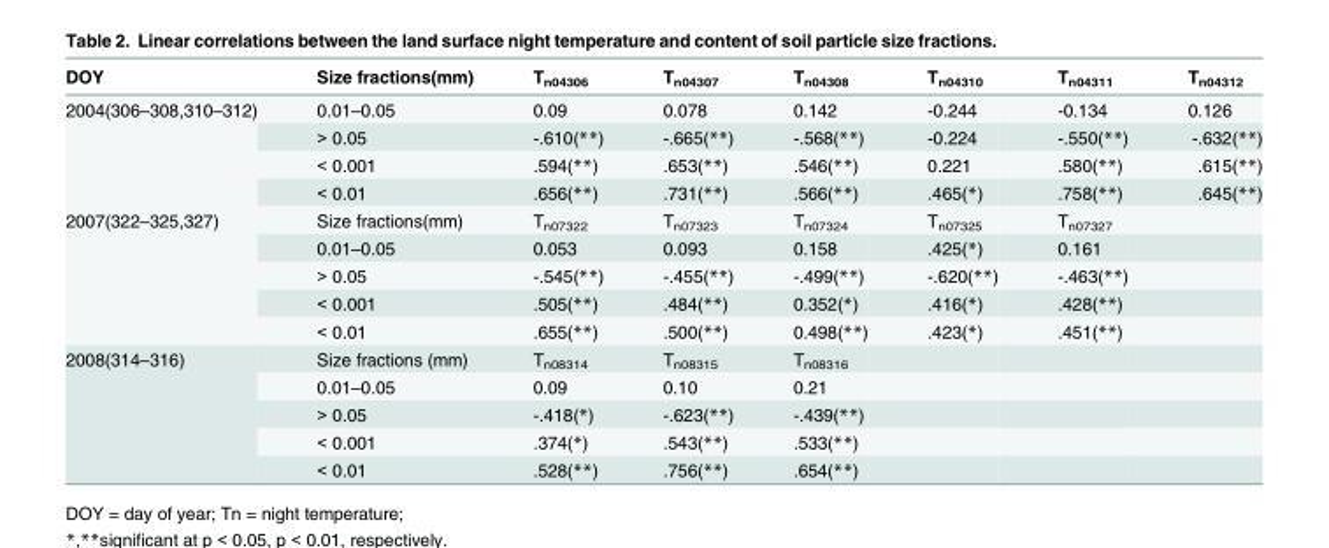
<table><thead><tr><td>DOY</td><td>Size fractions(mm)</td><td>T<sub>n04306</sub></td><td>T<sub>n04307</sub></td><td>T<sub>n04308</sub></td><td>T<sub>n04310</sub></td><td>T<sub>n04311</sub></td><td>T<sub>n04312</sub></td></tr></thead><tbody><tr><td rowspan="4">2004(306–308,310–312)</td><td>0.01–0.05</td><td>0.09</td><td>0.078</td><td>0.142</td><td>-0.244</td><td>-0.134</td><td>0.126</td></tr><tr><td>&gt; 0.05</td><td>-.610(**)</td><td>-.665(**)</td><td>-.568(**)</td><td>-0.224</td><td>-.550(**)</td><td>-.632(**)</td></tr><tr><td>&lt; 0.001</td><td>.594(**)</td><td>.653(**)</td><td>.546(**)</td><td>0.221</td><td>.580(**)</td><td>.615(**)</td></tr><tr><td>&lt; 0.01</td><td>.656(**)</td><td>.731(**)</td><td>.566(**)</td><td>.465(*)</td><td>.758(**)</td><td>.645(**)</td></tr><tr><td rowspan="5">2007(322–325,327)</td><td>Size fractions(mm)</td><td>T<sub>n07322</sub></td><td>T<sub>n07323</sub></td><td>T<sub>n07324</sub></td><td>T<sub>n07325</sub></td><td>T<sub>n07327</sub></td><td></td></tr><tr><td>0.01–0.05</td><td>0.053</td><td>0.093</td><td>0.158</td><td>.425(*)</td><td>0.161</td><td></td></tr><tr><td>&gt; 0.05</td><td>-.545(**)</td><td>-.455(**)</td><td>-.499(**)</td><td>-.620(**)</td><td>-.463(**)</td><td></td></tr><tr><td>&lt; 0.001</td><td>.505(**)</td><td>.484(**)</td><td>0.352(*)</td><td>.416(*)</td><td>.428(**)</td><td></td></tr><tr><td>&lt; 0.01</td><td>.655(**)</td><td>.500(**)</td><td>0.498(**)</td><td>.423(*)</td><td>.451(**)</td><td></td></tr><tr><td rowspan="5">2008(314–316)</td><td>Size fractions (mm)</td><td>T<sub>n08314</sub></td><td>T<sub>n08315</sub></td><td>T<sub>n08316</sub></td><td></td><td></td><td></td></tr><tr><td>0.01–0.05</td><td>0.09</td><td>0.10</td><td>0.21</td><td></td><td></td><td></td></tr><tr><td>&gt; 0.05</td><td>-.418(*)</td><td>-.623(**)</td><td>-.439(**)</td><td></td><td></td><td></td></tr><tr><td>&lt; 0.001</td><td>.374(*)</td><td>.543(**)</td><td>.533(**)</td><td></td><td></td><td></td></tr><tr><td>&lt; 0.01</td><td>.528(**)</td><td>.756(**)</td><td>.654(**)</td><td></td><td></td><td></td></tr></tbody></table>